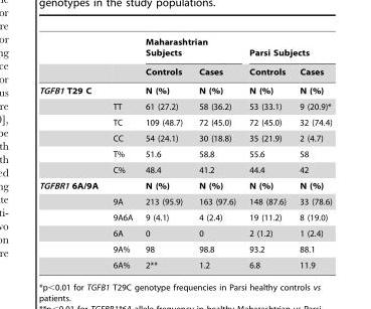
<table><thead><tr><td rowspan="2"></td><td rowspan="2"></td><td colspan="2">Maharashtrian Subjects</td><td colspan="2">Parsi Subjects</td></tr><tr><td>Controls</td><td>Cases</td><td>Controls</td><td>Cases</td></tr></thead><tbody><tr><td rowspan="6">TGFB1 T29 C</td><td></td><td>N (%)</td><td>N (%)</td><td>N (%)</td><td>N (%)</td></tr><tr><td>TT</td><td>61 (27.2)</td><td>58 (36.2)</td><td>53 (33.1)</td><td>9 (20.9)*</td></tr><tr><td>TC</td><td>109 (48.7)</td><td>72 (45.0)</td><td>72 (45.0)</td><td>32 (74.4)</td></tr><tr><td>CC</td><td>54 (24.1)</td><td>30 (18.8)</td><td>35 (21.9)</td><td>2 (4.7)</td></tr><tr><td>T%</td><td>51.6</td><td>58.8</td><td>55.6</td><td>58</td></tr><tr><td>C%</td><td>48.4</td><td>41.2</td><td>44.4</td><td>42</td></tr><tr><td rowspan="6">TGFBR1 6A/9A</td><td></td><td>N (%)</td><td>N (%)</td><td>N (%)</td><td>N (%)</td></tr><tr><td>9A</td><td>213 (95.9)</td><td>163 (97.6)</td><td>148 (87.6)</td><td>33 (78.6)</td></tr><tr><td>9A6A</td><td>9 (4.1)</td><td>4 (2.4)</td><td>19 (11.2)</td><td>8 (19.0)</td></tr><tr><td>6A</td><td>0</td><td>0</td><td>2 (1.2)</td><td>1 (2.4)</td></tr><tr><td>9A%</td><td>98</td><td>98.8</td><td>93.2</td><td>88.1</td></tr><tr><td>6A%</td><td>2**</td><td>1.2</td><td>6.8</td><td>11.9</td></tr></tbody></table>